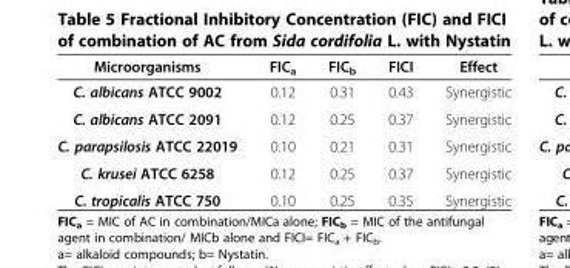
<table><thead><tr><td>Microorganisms</td><td>FIC<sub>a</sub></td><td>FIC<sub>b</sub></td><td>FICI</td><td>Effect</td></tr></thead><tbody><tr><td>C. albicans ATCC 9002</td><td>0.12</td><td>0.31</td><td>0.43</td><td>Synergistic</td></tr><tr><td>C. albicans ATCC 2091</td><td>0.12</td><td>0.25</td><td>0.37</td><td>Synergistic</td></tr><tr><td>C. parapsilosis ATCC 22019</td><td>0.10</td><td>0.21</td><td>0.31</td><td>Synergistic</td></tr><tr><td>C. krusei ATCC 6258</td><td>0.12</td><td>0.25</td><td>0.37</td><td>Synergistic</td></tr><tr><td>C. tropicalis ATCC 750</td><td>0.10</td><td>0.25</td><td>0.35</td><td>Synergistic</td></tr></tbody></table>